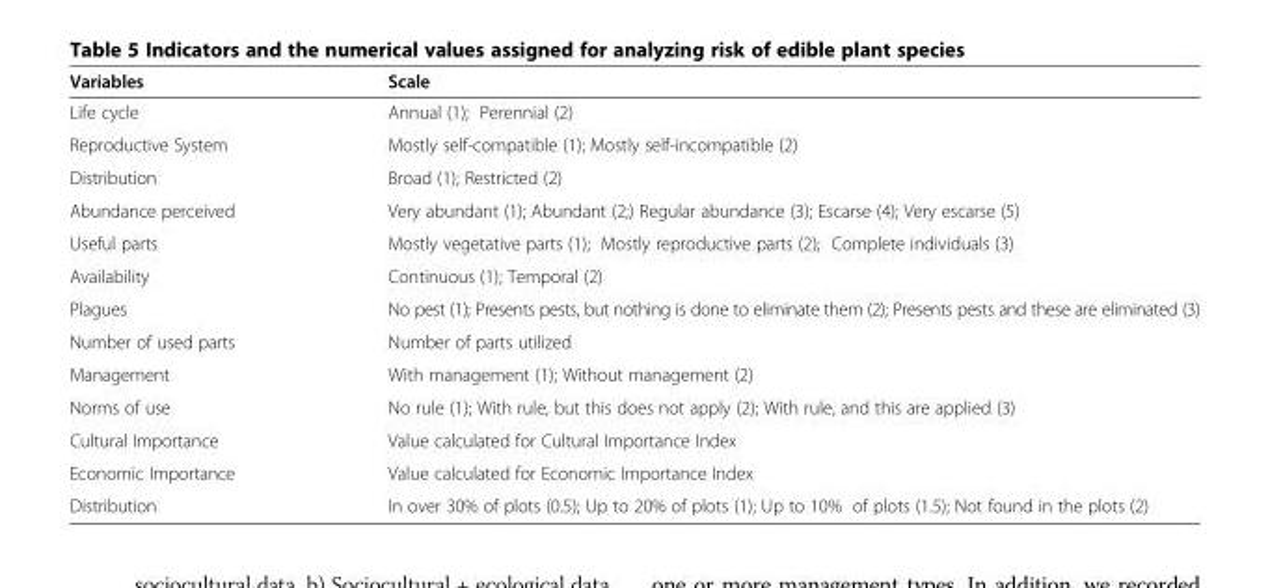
<table><thead><tr><td>Variables</td><td>Scale</td></tr></thead><tbody><tr><td>Life cycle</td><td>Annual (1); Perennial (2)</td></tr><tr><td>Reproductive System</td><td>Mostly self-compatible (1); Mostly self-incompatible (2)</td></tr><tr><td>Distribution</td><td>Broad (1); Restricted (2)</td></tr><tr><td>Abundance perceived</td><td>Very abundant (1); Abundant (2;) Regular abundance (3); Escarse (4); Very escarse (5)</td></tr><tr><td>Useful parts</td><td>Mostly vegetative parts (1); Mostly reproductive parts (2); Complete individuals (3)</td></tr><tr><td>Availability</td><td>Continuous (1); Temporal (2)</td></tr><tr><td>Plagues</td><td>No pest (1); Presents pests, but nothing is done to eliminate them (2); Presents pests and these are eliminated (3)</td></tr><tr><td>Number of used parts</td><td>Number of parts utilized</td></tr><tr><td>Management</td><td>With management (1); Without management (2)</td></tr><tr><td>Norms of use</td><td>No rule (1); With rule, but this does not apply (2); With rule, and this are applied (3)</td></tr><tr><td>Cultural Importance</td><td>Value calculated for Cultural Importance Index</td></tr><tr><td>Economic Importance</td><td>Value calculated for Economic Importance Index</td></tr><tr><td>Distribution</td><td>In over 30% of plots (0.5); Up to 20% of plots (1); Up to 10% of plots (1.5); Not found in the plots (2)</td></tr></tbody></table>